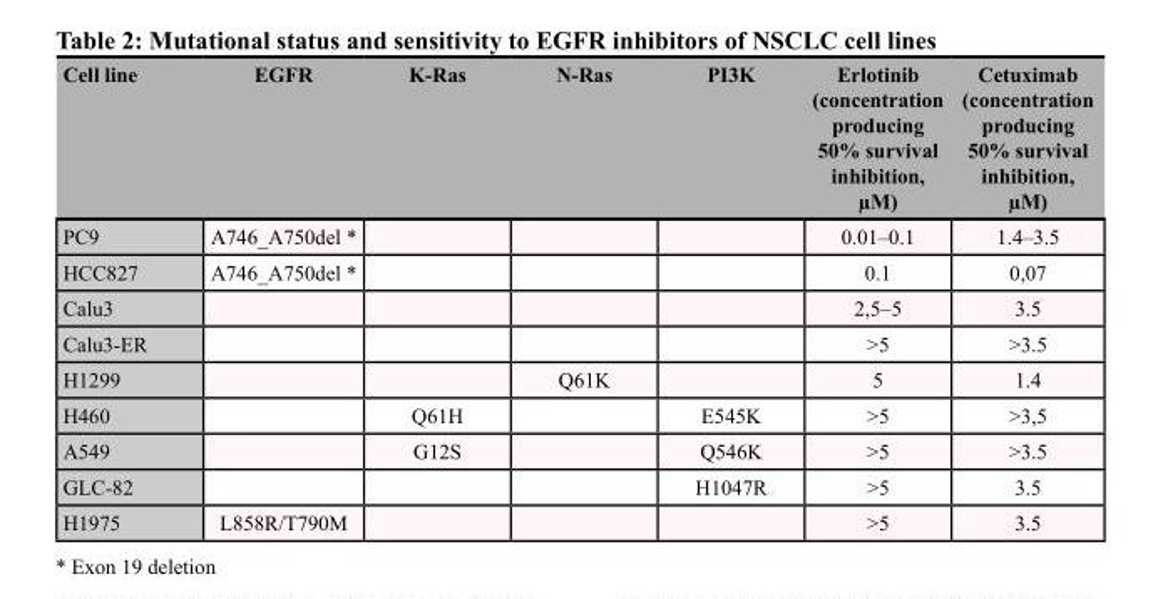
<table><thead><tr><td>Cell line</td><td>EGFR</td><td>K-Ras</td><td>N-Ras</td><td>PI3K</td><td>Erlotinib (concentration producing 50% survival inhibition, µM)</td><td>Cetuximab (concentration producing 50% survival inhibition, µM)</td></tr></thead><tbody><tr><td>PC9</td><td>A746_A750del *</td><td></td><td></td><td></td><td>0.01–0.1</td><td>1.4–3.5</td></tr><tr><td>HCC827</td><td>A746_A750del *</td><td></td><td></td><td></td><td>0.1</td><td>0,07</td></tr><tr><td>Calu3</td><td></td><td></td><td></td><td></td><td>2,5–5</td><td>3.5</td></tr><tr><td>Calu3-ER</td><td></td><td></td><td></td><td></td><td>&gt;5</td><td>&gt;3.5</td></tr><tr><td>H1299</td><td></td><td></td><td>Q61K</td><td></td><td>5</td><td>1.4</td></tr><tr><td>H460</td><td></td><td>Q61H</td><td></td><td>E545K</td><td>&gt;5</td><td>&gt;3,5</td></tr><tr><td>A549</td><td></td><td>G12S</td><td></td><td>Q546K</td><td>&gt;5</td><td>&gt;3.5</td></tr><tr><td>GLC-82</td><td></td><td></td><td></td><td>H1047R</td><td>&gt;5</td><td>3.5</td></tr><tr><td>H1975</td><td>L858R/T790M</td><td></td><td></td><td></td><td>&gt;5</td><td>3.5</td></tr></tbody></table>